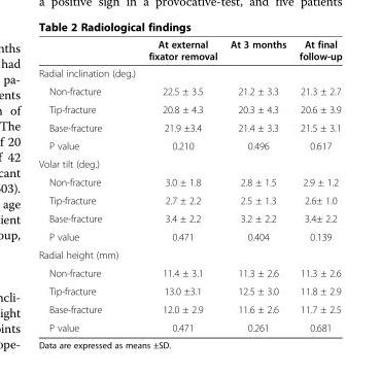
<table><thead><tr><td></td><td>At external fixator removal</td><td>At 3 months</td><td>At final follow-up</td></tr></thead><tbody><tr><td colspan="4">Radial inclination (deg.)</td></tr><tr><td>Non-fracture</td><td>22.5 ± 3.5</td><td>21.2 ± 3.3</td><td>21.3 ± 2.7</td></tr><tr><td>Tip-fracture</td><td>20.8 ± 4.3</td><td>20.3 ± 4.3</td><td>20.6 ± 3.9</td></tr><tr><td>Base-fracture</td><td>21.9 ±3.4</td><td>21.4 ± 3.3</td><td>21.5 ± 3.1</td></tr><tr><td>P value</td><td>0.210</td><td>0.496</td><td>0.617</td></tr><tr><td colspan="4">Volar tilt (deg.)</td></tr><tr><td>Non-fracture</td><td>3.0 ± 1.8</td><td>2.8 ± 1.5</td><td>2.9 ± 1.2</td></tr><tr><td>Tip-fracture</td><td>2.7 ± 2.2</td><td>2.5 ± 1.3</td><td>2.6± 1.0</td></tr><tr><td>Base-fracture</td><td>3.4 ± 2.2</td><td>3.2 ± 2.2</td><td>3.4± 2.2</td></tr><tr><td>P value</td><td>0.471</td><td>0.404</td><td>0.139</td></tr><tr><td colspan="4">Radial height (mm)</td></tr><tr><td>Non-fracture</td><td>11.4 ± 3.1</td><td>11.3 ± 2.6</td><td>11.3 ± 2.6</td></tr><tr><td>Tip-fracture</td><td>13.0 ±3.1</td><td>12.5 ± 3.0</td><td>11.8 ± 2.9</td></tr><tr><td>Base-fracture</td><td>12.0 ± 2.9</td><td>11.6 ± 2.6</td><td>11.7 ± 2.5</td></tr><tr><td>P value</td><td>0.471</td><td>0.261</td><td>0.681</td></tr></tbody></table>